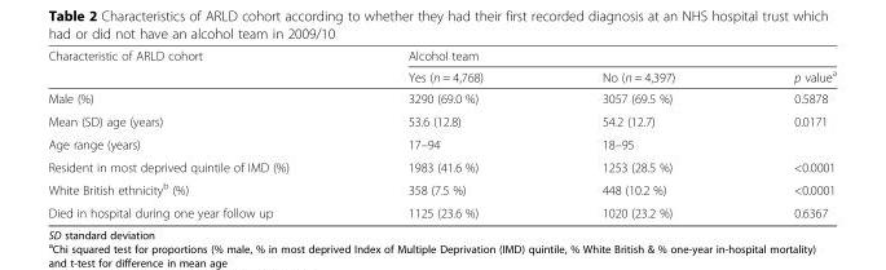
<table><thead><tr><td rowspan="2">Characteristic of ARLD cohort</td><td colspan="3">Alcohol team</td></tr><tr><td>Yes (n = 4,768)</td><td>No (n = 4,397)</td><td>p value<sup>a</sup></td></tr></thead><tbody><tr><td>Male (%)</td><td>3290 (69.0 %)</td><td>3057 (69.5 %)</td><td>0.5878</td></tr><tr><td>Mean (SD) age (years)</td><td>53.6 (12.8)</td><td>54.2 (12.7)</td><td>0.0171</td></tr><tr><td>Age range (years)</td><td>17–94</td><td>18–95</td><td></td></tr><tr><td>Resident in most deprived quintile of IMD (%)</td><td>1983 (41.6 %)</td><td>1253 (28.5 %)</td><td>&lt;0.0001</td></tr><tr><td>White British ethnicity<sup>b</sup> (%)</td><td>358 (7.5 %)</td><td>448 (10.2 %)</td><td>&lt;0.0001</td></tr><tr><td>Died in hospital during one year follow up</td><td>1125 (23.6 %)</td><td>1020 (23.2 %)</td><td>0.6367</td></tr></tbody></table>